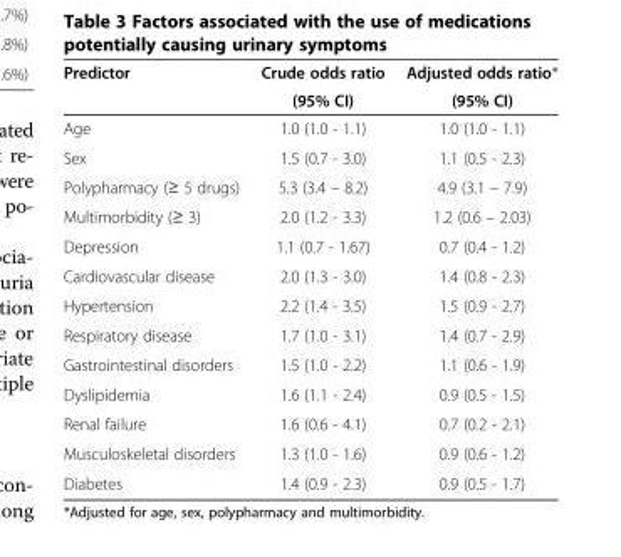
<table><thead><tr><td rowspan="2">Predictor</td><td rowspan="2">Crude odds ratio (95% CI)</td><td rowspan="2">Adjusted odds ratio* (95% CI)</td></tr><tr></tr></thead><tbody><tr><td>Age</td><td>1.0 (1.0 - 1.1)</td><td>1.0 (1.0 - 1.1)</td></tr><tr><td>Sex</td><td>1.5 (0.7 - 3.0)</td><td>1.1 (0.5 - 2.3)</td></tr><tr><td>Polypharmacy (≥ 5 drugs)</td><td>5.3 (3.4 – 8.2)</td><td>4.9 (3.1 – 7.9)</td></tr><tr><td>Multimorbidity (≥ 3)</td><td>2.0 (1.2 - 3.3)</td><td>1.2 (0.6 – 2.03)</td></tr><tr><td>Depression</td><td>1.1 (0.7 - 1.67)</td><td>0.7 (0.4 - 1.2)</td></tr><tr><td>Cardiovascular disease</td><td>2.0 (1.3 - 3.0)</td><td>1.4 (0.8 - 2.3)</td></tr><tr><td>Hypertension</td><td>2.2 (1.4 - 3.5)</td><td>1.5 (0.9 - 2.7)</td></tr><tr><td>Respiratory disease</td><td>1.7 (1.0 - 3.1)</td><td>1.4 (0.7 - 2.9)</td></tr><tr><td>Gastrointestinal disorders</td><td>1.5 (1.0 - 2.2)</td><td>1.1 (0.6 - 1.9)</td></tr><tr><td>Dyslipidemia</td><td>1.6 (1.1 - 2.4)</td><td>0.9 (0.5 - 1.5)</td></tr><tr><td>Renal failure</td><td>1.6 (0.6 - 4.1)</td><td>0.7 (0.2 - 2.1)</td></tr><tr><td>Musculoskeletal disorders</td><td>1.3 (1.0 - 1.6)</td><td>0.9 (0.6 - 1.2)</td></tr><tr><td>Diabetes</td><td>1.4 (0.9 - 2.3)</td><td>0.9 (0.5 - 1.7)</td></tr></tbody></table>